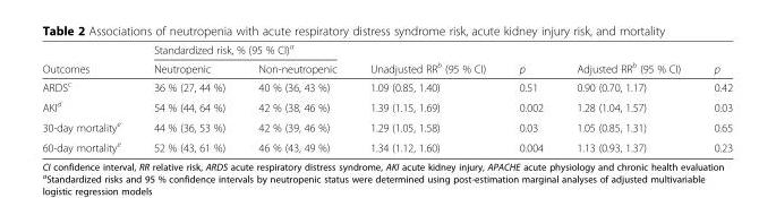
<table><thead><tr><td rowspan="2">Outcomes</td><td colspan="2">Standardized risk, % (95 % CI)<sup>a</sup></td><td rowspan="2">Unadjusted RR<sup>b</sup> (95 % CI)</td><td rowspan="2">p</td><td rowspan="2">Adjusted RR<sup>b</sup> (95 % CI)</td><td rowspan="2">p</td></tr><tr><td>Neutropenic</td><td>Non-neutropenic</td></tr></thead><tbody><tr><td>ARDS<sup>c</sup></td><td>36 % (27, 44 %)</td><td>40 % (36, 43 %)</td><td>1.09 (0.85, 1.40)</td><td>0.51</td><td>0.90 (0.70, 1.17)</td><td>0.42</td></tr><tr><td>AKI<sup>d</sup></td><td>54 % (44, 64 %)</td><td>42 % (38, 46 %)</td><td>1.39 (1.15, 1.69)</td><td>0.002</td><td>1.28 (1.04, 1.57)</td><td>0.03</td></tr><tr><td>30-day mortality<sup>e</sup></td><td>44 % (36, 53 %)</td><td>42 % (39, 46 %)</td><td>1.29 (1.05, 1.58)</td><td>0.03</td><td>1.05 (0.85, 1.31)</td><td>0.65</td></tr><tr><td>60-day mortality<sup>e</sup></td><td>52 % (43, 61 %)</td><td>46 % (43, 49 %)</td><td>1.34 (1.12, 1.60)</td><td>0.004</td><td>1.13 (0.93, 1.37)</td><td>0.23</td></tr></tbody></table>